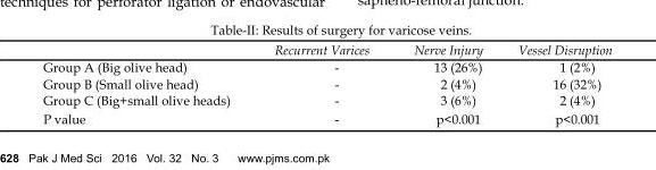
<table><thead><tr><td></td><td>Recurrent Varices</td><td>Nerve Injury</td><td>Vessel Disruption</td></tr></thead><tbody><tr><td>Group A (Big olive head)</td><td>-</td><td>13 (26%)</td><td>1 (2%)</td></tr><tr><td>Group B (Small olive head)</td><td>-</td><td>2 (4%)</td><td>16 (32%)</td></tr><tr><td>Group C (Big+small olive heads)</td><td>-</td><td>3 (6%)</td><td>2 (4%)</td></tr><tr><td>P value</td><td>-</td><td>p&lt;0.001</td><td>p&lt;0.001</td></tr></tbody></table>